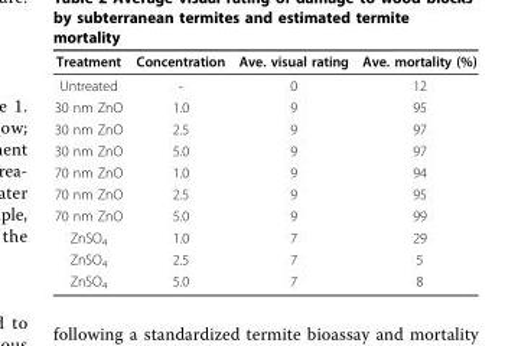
<table><thead><tr><td>Treatment</td><td>Concentration</td><td>Ave. visual rating</td><td>Ave. mortality (%)</td></tr></thead><tbody><tr><td>Untreated</td><td>-</td><td>0</td><td>12</td></tr><tr><td>30 nm ZnO</td><td>1.0</td><td>9</td><td>95</td></tr><tr><td>30 nm ZnO</td><td>2.5</td><td>9</td><td>97</td></tr><tr><td>30 nm ZnO</td><td>5.0</td><td>9</td><td>97</td></tr><tr><td>70 nm ZnO</td><td>1.0</td><td>9</td><td>94</td></tr><tr><td>70 nm ZnO</td><td>2.5</td><td>9</td><td>95</td></tr><tr><td>70 nm ZnO</td><td>5.0</td><td>9</td><td>99</td></tr><tr><td>ZnSO<sub>4</sub></td><td>1.0</td><td>7</td><td>29</td></tr><tr><td>ZnSO<sub>4</sub></td><td>2.5</td><td>7</td><td>5</td></tr><tr><td>ZnSO<sub>4</sub></td><td>5.0</td><td>7</td><td>8</td></tr></tbody></table>